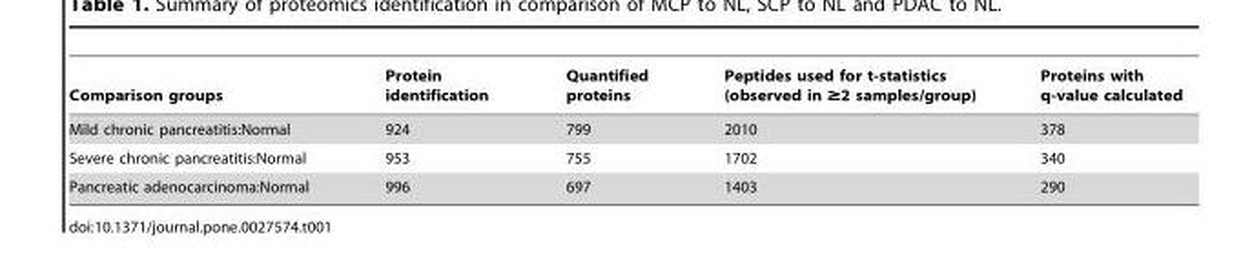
<table><thead><tr><td>Comparison groups</td><td>Protein identification</td><td>Quantified proteins</td><td>Peptides used for t-statistics (observed in ≥2 samples/group)</td><td>Proteins with q-value calculated</td></tr></thead><tbody><tr><td>Mild chronic pancreatitis:Normal</td><td>924</td><td>799</td><td>2010</td><td>378</td></tr><tr><td>Severe chronic pancreatitis:Normal</td><td>953</td><td>755</td><td>1702</td><td>340</td></tr><tr><td>Pancreatic adenocarcinoma:Normal</td><td>996</td><td>697</td><td>1403</td><td>290</td></tr></tbody></table>